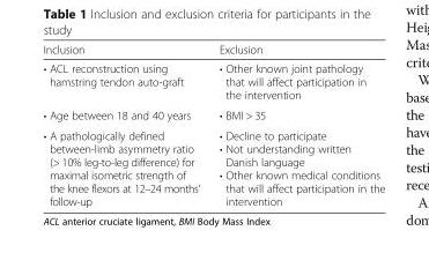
<table><thead><tr><td>Inclusion</td><td>Exclusion</td></tr></thead><tbody><tr><td>• ACL reconstruction using hamstring tendon auto-graft</td><td>• Other known joint pathology that will affect participation in the intervention</td></tr><tr><td>• Age between 18 and 40 years</td><td>• BMI &gt; 35</td></tr><tr><td>• A pathologically defined between-limb asymmetry ratio (&gt; 10% leg-to-leg difference) for maximal isometric strength of the knee flexors at 12–24 months’ follow-up</td><td>• Decline to participate • Not understanding written Danish language • Other known medical conditions that will affect participation in the intervention</td></tr></tbody></table>